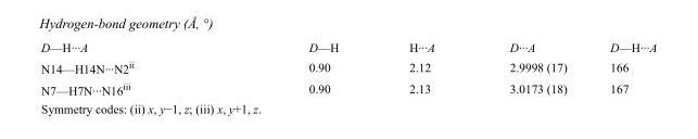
<table><tbody><tr><td>D—H···A</td><td>D—H</td><td>H···A</td><td>D···A</td><td>D—H···A</td></tr><tr><td>N14—H14N···N2<sup>ii</sup></td><td>0.90</td><td>2.12</td><td>2.9998 (17)</td><td>166</td></tr><tr><td>N7—H7N···N16<sup>iii</sup></td><td>0.90</td><td>2.13</td><td>3.0173 (18)</td><td>167</td></tr></tbody></table>